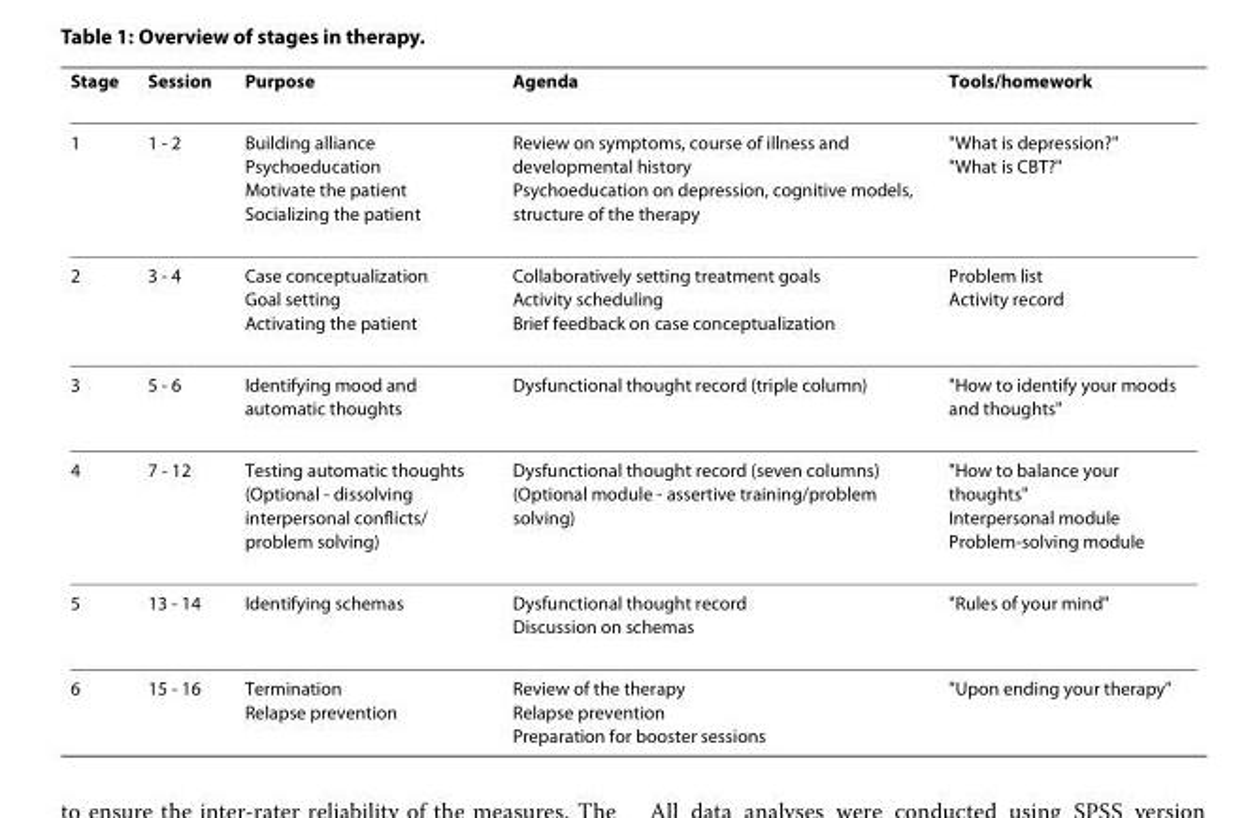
<table><thead><tr><td>Stage</td><td>Session</td><td>Purpose</td><td>Agenda</td><td>Tools/homework</td></tr></thead><tbody><tr><td>1</td><td>1 - 2</td><td>Building alliance Psychoeducation Motivate the patient Socializing the patient</td><td>Review on symptoms, course of illness and developmental history Psychoeducation on depression, cognitive models, structure of the therapy</td><td>&quot;What is depression?&quot; &quot;What is CBT?&quot;</td></tr><tr><td>2</td><td>3 - 4</td><td>Case conceptualization Goal setting Activating the patient</td><td>Collaboratively setting treatment goals Activity scheduling Brief feedback on case conceptualization</td><td>Problem list Activity record</td></tr><tr><td>3</td><td>5 - 6</td><td>Identifying mood and automatic thoughts</td><td>Dysfunctional thought record (triple column)</td><td>&quot;How to identify your moods and thoughts&quot;</td></tr><tr><td>4</td><td>7 - 12</td><td>Testing automatic thoughts (Optional - dissolving interpersonal conflicts/ problem solving)</td><td>Dysfunctional thought record (seven columns) (Optional module - assertive training/problem solving)</td><td>&quot;How to balance your thoughts&quot; Interpersonal module Problem-solving module</td></tr><tr><td>5</td><td>13 - 14</td><td>Identifying schemas</td><td>Dysfunctional thought record Discussion on schemas</td><td>&quot;Rules of your mind&quot;</td></tr><tr><td>6</td><td>15 - 16</td><td>Termination Relapse prevention</td><td>Review of the therapy Relapse prevention Preparation for booster sessions</td><td>&quot;Upon ending your therapy&quot;</td></tr></tbody></table>